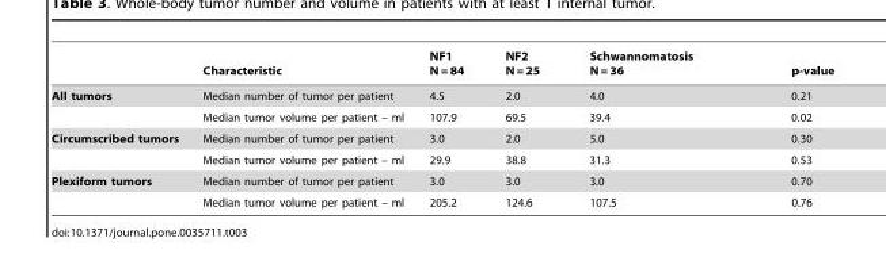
<table><thead><tr><td></td><td>Characteristic</td><td>NF1 N = 84</td><td>NF2 N = 25</td><td>Schwannomatosis N = 36</td><td>p-value</td></tr></thead><tbody><tr><td rowspan="2">All tumors</td><td>Median number of tumor per patient</td><td>4.5</td><td>2.0</td><td>4.0</td><td>0.21</td></tr><tr><td>Median tumor volume per patient – ml</td><td>107.9</td><td>69.5</td><td>39.4</td><td>0.02</td></tr><tr><td rowspan="2">Circumscribed tumors</td><td>Median number of tumor per patient</td><td>3.0</td><td>2.0</td><td>5.0</td><td>0.30</td></tr><tr><td>Median tumor volume per patient – ml</td><td>29.9</td><td>38.8</td><td>31.3</td><td>0.53</td></tr><tr><td rowspan="2">Plexiform tumors</td><td>Median number of tumor per patient</td><td>3.0</td><td>3.0</td><td>3.0</td><td>0.70</td></tr><tr><td>Median tumor volume per patient – ml</td><td>205.2</td><td>124.6</td><td>107.5</td><td>0.76</td></tr></tbody></table>